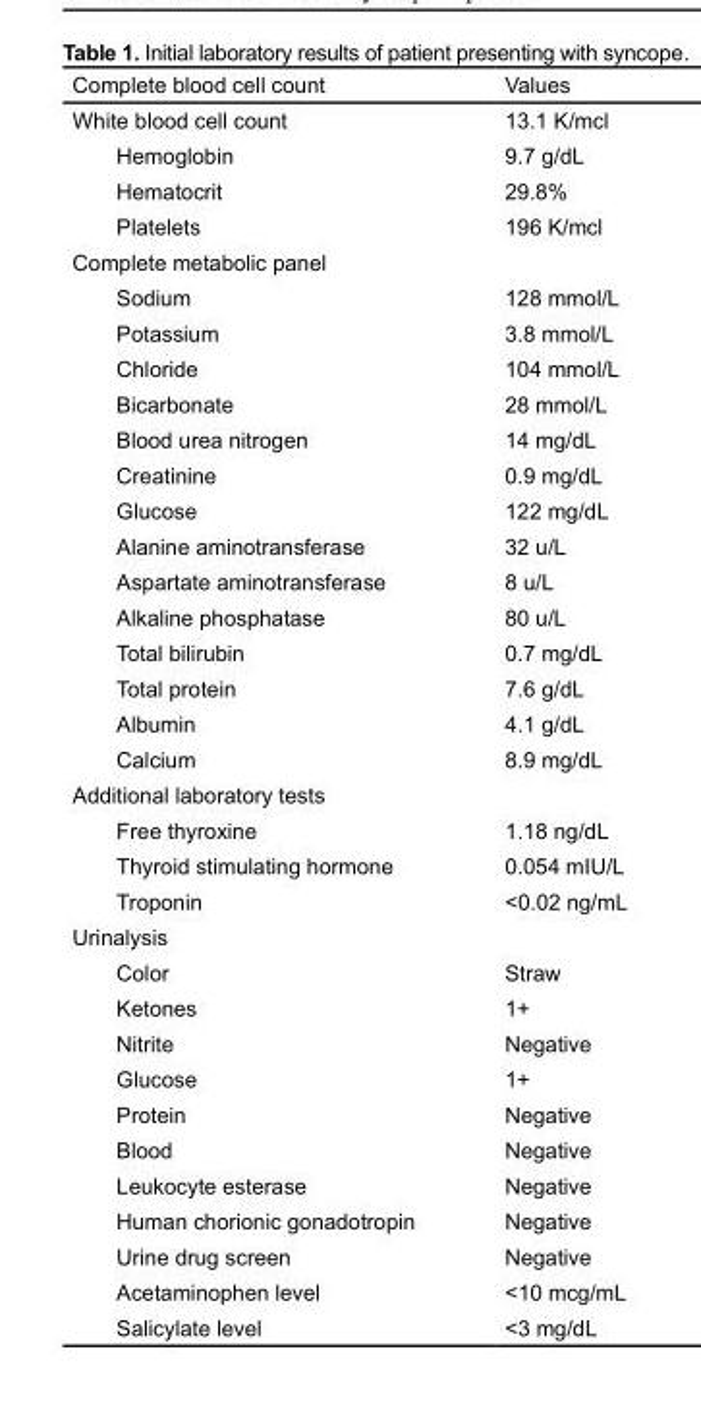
<table><thead><tr><td>Complete blood cell count</td><td>Values</td></tr></thead><tbody><tr><td>White blood cell count</td><td>13.1 K/mcl</td></tr><tr><td>Hemoglobin</td><td>9.7 g/dL</td></tr><tr><td>Hematocrit</td><td>29.8%</td></tr><tr><td>Platelets</td><td>196 K/mcl</td></tr><tr><td colspan="2">Complete metabolic panel</td></tr><tr><td>Sodium</td><td>128 mmol/L</td></tr><tr><td>Potassium</td><td>3.8 mmol/L</td></tr><tr><td>Chloride</td><td>104 mmol/L</td></tr><tr><td>Bicarbonate</td><td>28 mmol/L</td></tr><tr><td>Blood urea nitrogen</td><td>14 mg/dL</td></tr><tr><td>Creatinine</td><td>0.9 mg/dL</td></tr><tr><td>Glucose</td><td>122 mg/dL</td></tr><tr><td>Alanine aminotransferase</td><td>32 u/L</td></tr><tr><td>Aspartate aminotransferase</td><td>8 u/L</td></tr><tr><td>Alkaline phosphatase</td><td>80 u/L</td></tr><tr><td>Total bilirubin</td><td>0.7 mg/dL</td></tr><tr><td>Total protein</td><td>7.6 g/dL</td></tr><tr><td>Albumin</td><td>4.1 g/dL</td></tr><tr><td>Calcium</td><td>8.9 mg/dL</td></tr><tr><td colspan="2">Additional laboratory tests</td></tr><tr><td>Free thyroxine</td><td>1.18 ng/dL</td></tr><tr><td>Thyroid stimulating hormone</td><td>0.054 mIU/L</td></tr><tr><td>Troponin</td><td>&lt;0.02 ng/mL</td></tr><tr><td colspan="2">Urinalysis</td></tr><tr><td>Color</td><td>Straw</td></tr><tr><td>Ketones</td><td>1+</td></tr><tr><td>Nitrite</td><td>Negative</td></tr><tr><td>Glucose</td><td>1+</td></tr><tr><td>Protein</td><td>Negative</td></tr><tr><td>Blood</td><td>Negative</td></tr><tr><td>Leukocyte esterase</td><td>Negative</td></tr><tr><td>Human chorionic gonadotropin</td><td>Negative</td></tr><tr><td>Urine drug screen</td><td>Negative</td></tr><tr><td>Acetaminophen level</td><td>&lt;10 mcg/mL</td></tr><tr><td>Salicylate level</td><td>&lt;3 mg/dL</td></tr></tbody></table>